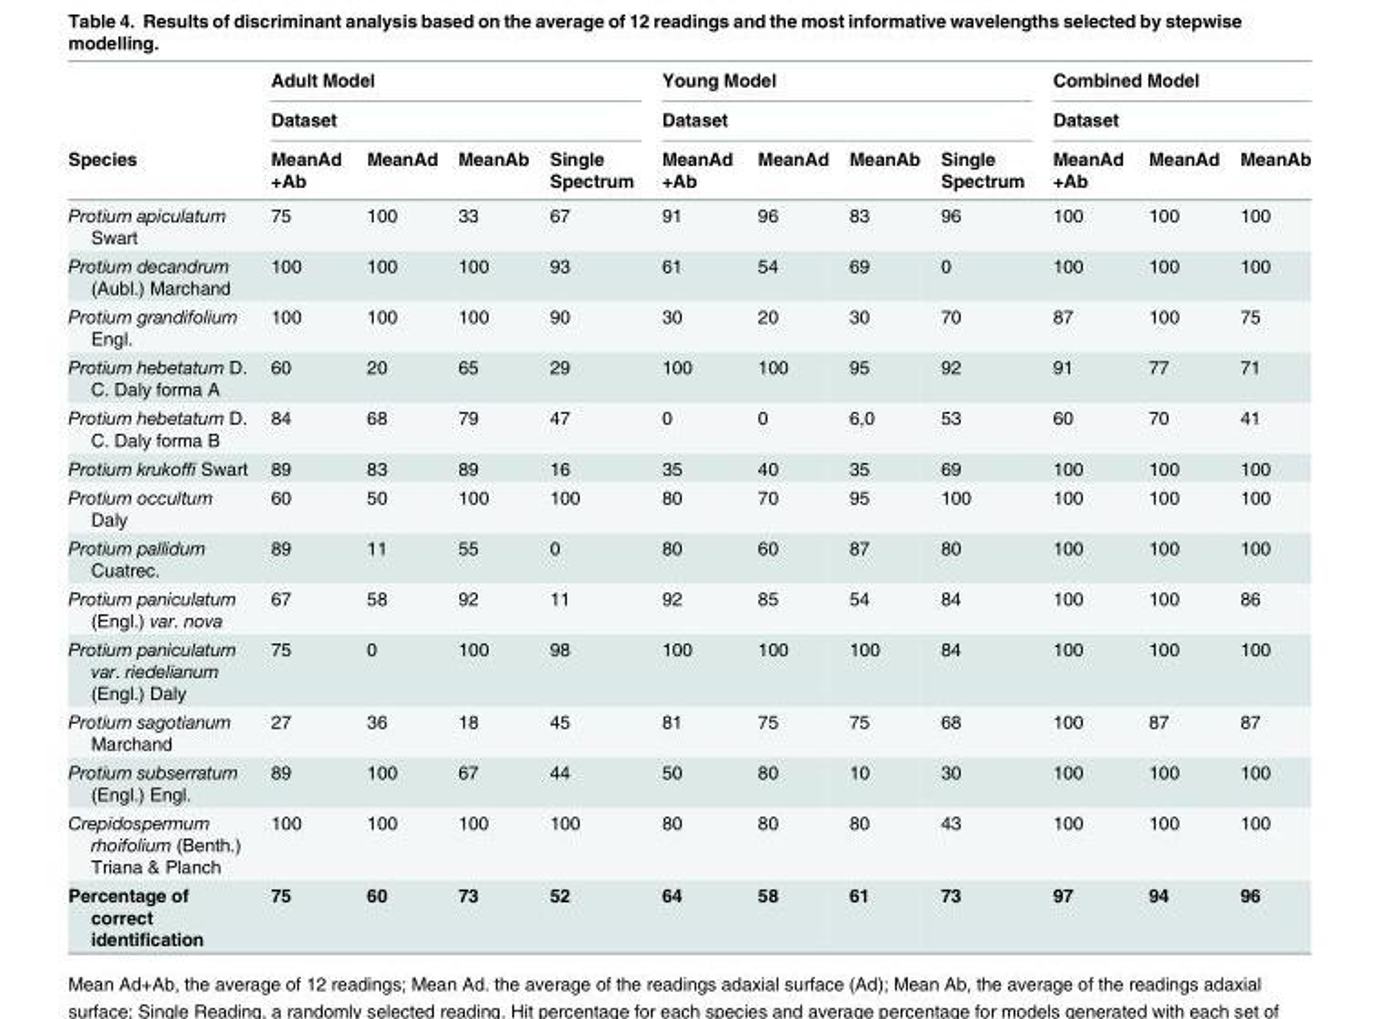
<table><thead><tr><td rowspan="3">Species</td><td rowspan="2" colspan="4">Adult Model Dataset</td><td rowspan="2" colspan="4">Young Model Dataset</td><td rowspan="2" colspan="3">Combined Model Dataset</td></tr><tr></tr><tr><td>MeanAd +Ab</td><td>MeanAd</td><td>MeanAb</td><td>Single Spectrum</td><td>MeanAd +Ab</td><td>MeanAd</td><td>MeanAb</td><td>Single Spectrum</td><td>MeanAd +Ab</td><td>MeanAd</td><td>MeanAb</td></tr></thead><tbody><tr><td>Protium apiculatum Swart</td><td>75</td><td>100</td><td>33</td><td>67</td><td>91</td><td>96</td><td>83</td><td>96</td><td>100</td><td>100</td><td>100</td></tr><tr><td>Protium decandrum (Aubl.) Marchand</td><td>100</td><td>100</td><td>100</td><td>93</td><td>61</td><td>54</td><td>69</td><td>0</td><td>100</td><td>100</td><td>100</td></tr><tr><td>Protium grandifolium Engl.</td><td>100</td><td>100</td><td>100</td><td>90</td><td>30</td><td>20</td><td>30</td><td>70</td><td>87</td><td>100</td><td>75</td></tr><tr><td>Protium hebetatum D. C. Daly forma A</td><td>60</td><td>20</td><td>65</td><td>29</td><td>100</td><td>100</td><td>95</td><td>92</td><td>91</td><td>77</td><td>71</td></tr><tr><td>Protium hebetatum D. C. Daly forma B</td><td>84</td><td>68</td><td>79</td><td>47</td><td>0</td><td>0</td><td>6,0</td><td>53</td><td>60</td><td>70</td><td>41</td></tr><tr><td>Protium krukoffi Swart</td><td>89</td><td>83</td><td>89</td><td>16</td><td>35</td><td>40</td><td>35</td><td>69</td><td>100</td><td>100</td><td>100</td></tr><tr><td>Protium occultum Daly</td><td>60</td><td>50</td><td>100</td><td>100</td><td>80</td><td>70</td><td>95</td><td>100</td><td>100</td><td>100</td><td>100</td></tr><tr><td>Protium pallidum Cuatrec.</td><td>89</td><td>11</td><td>55</td><td>0</td><td>80</td><td>60</td><td>87</td><td>80</td><td>100</td><td>100</td><td>100</td></tr><tr><td>Protium paniculatum (Engl.) var. nova</td><td>67</td><td>58</td><td>92</td><td>11</td><td>92</td><td>85</td><td>54</td><td>84</td><td>100</td><td>100</td><td>86</td></tr><tr><td>Protium paniculatum var. riedelianum (Engl.) Daly</td><td>75</td><td>0</td><td>100</td><td>98</td><td>100</td><td>100</td><td>100</td><td>84</td><td>100</td><td>100</td><td>100</td></tr><tr><td>Protium sagotianum Marchand</td><td>27</td><td>36</td><td>18</td><td>45</td><td>81</td><td>75</td><td>75</td><td>68</td><td>100</td><td>87</td><td>87</td></tr><tr><td>Protium subserratum (Engl.) Engl.</td><td>89</td><td>100</td><td>67</td><td>44</td><td>50</td><td>80</td><td>10</td><td>30</td><td>100</td><td>100</td><td>100</td></tr><tr><td>Crepidospermum rhoifolium (Benth.) Triana &amp; Planch</td><td>100</td><td>100</td><td>100</td><td>100</td><td>80</td><td>80</td><td>80</td><td>43</td><td>100</td><td>100</td><td>100</td></tr><tr><td>Percentage of correct identification</td><td>75</td><td>60</td><td>73</td><td>52</td><td>64</td><td>58</td><td>61</td><td>73</td><td>97</td><td>94</td><td>96</td></tr></tbody></table>